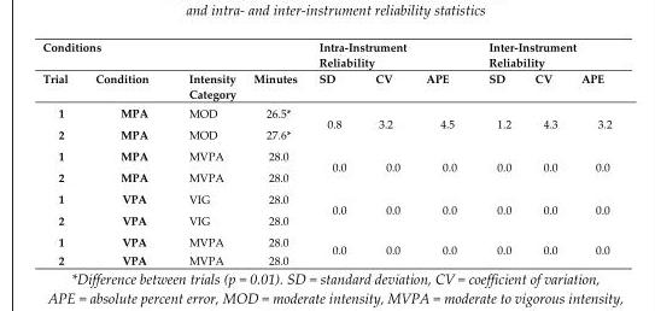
<table><thead><tr><td colspan="4">Conditions</td><td colspan="3">Intra-Instrument Reliability</td><td colspan="3">Inter-Instrument Reliability</td></tr><tr><td>Trial</td><td>Condition</td><td>Intensity Category</td><td>Minutes</td><td>SD</td><td>CV</td><td>APE</td><td>SD</td><td>CV</td><td>APE</td></tr></thead><tbody><tr><td>1</td><td>MPA</td><td>MOD</td><td>26.5*</td><td rowspan="2">0.8</td><td rowspan="2">3.2</td><td rowspan="2">4.5</td><td rowspan="2">1.2</td><td rowspan="2">4.3</td><td rowspan="2">3.2</td></tr><tr><td>2</td><td>MPA</td><td>MOD</td><td>27.6*</td></tr><tr><td>1</td><td>MPA</td><td>MVPA</td><td>28.0</td><td rowspan="2">0.0</td><td rowspan="2">0.0</td><td rowspan="2">0.0</td><td rowspan="2">0.0</td><td rowspan="2">0.0</td><td rowspan="2">0.0</td></tr><tr><td>2</td><td>MPA</td><td>MVPA</td><td>28.0</td></tr><tr><td>1</td><td>VPA</td><td>VIG</td><td>28.0</td><td rowspan="2">0.0</td><td rowspan="2">0.0</td><td rowspan="2">0.0</td><td rowspan="2">0.0</td><td rowspan="2">0.0</td><td rowspan="2">0.0</td></tr><tr><td>2</td><td>VPA</td><td>VIG</td><td>28.0</td></tr><tr><td>1</td><td>VPA</td><td>MVPA</td><td>28.0</td><td rowspan="2">0.0</td><td rowspan="2">0.0</td><td rowspan="2">0.0</td><td rowspan="2">0.0</td><td rowspan="2">0.0</td><td rowspan="2">0.0</td></tr><tr><td>2</td><td>VPA</td><td>MVPA</td><td>28.0</td></tr></tbody></table>